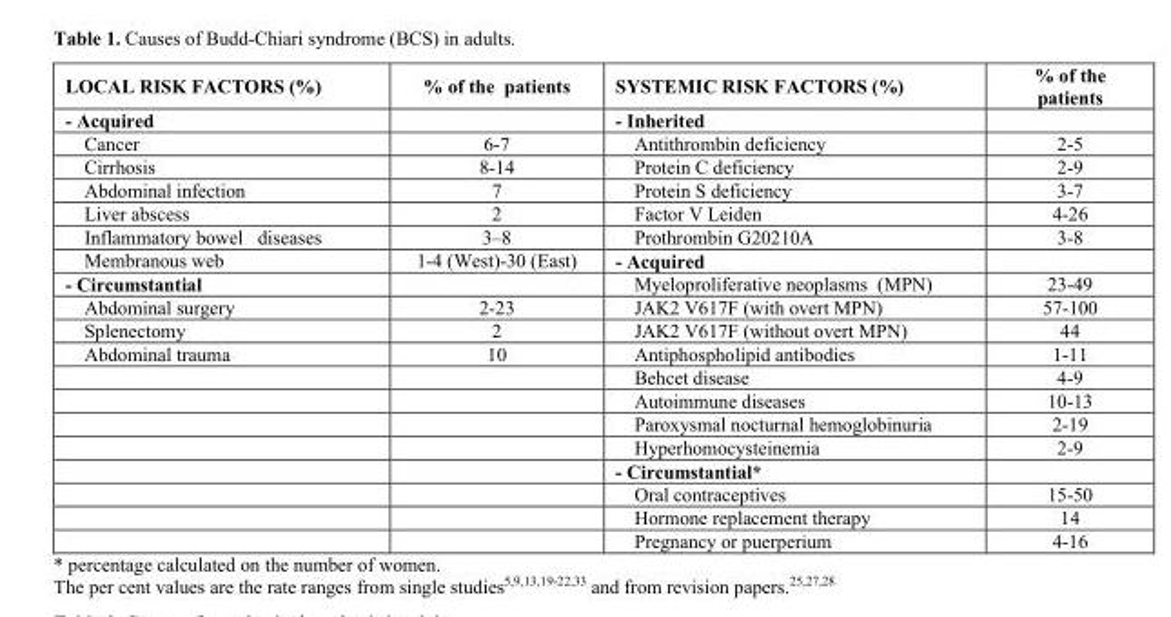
<table><thead><tr><td>LOCAL RISK FACTORS (%)</td><td>% of the patients</td><td>SYSTEMIC RISK FACTORS (%)</td><td>% of the patients</td></tr></thead><tbody><tr><td>- Acquired</td><td></td><td>- Inherited</td><td></td></tr><tr><td>Cancer</td><td>6-7</td><td>Antithrombin deficiency</td><td>2-5</td></tr><tr><td>Cirrhosis</td><td>8-14</td><td>Protein C deficiency</td><td>2-9</td></tr><tr><td>Abdominal infection</td><td>7</td><td>Protein S deficiency</td><td>3-7</td></tr><tr><td>Liver abscess</td><td>2</td><td>Factor V Leiden</td><td>4-26</td></tr><tr><td>Inflammatory bowel diseases</td><td>3–8</td><td>Prothrombin G20210A</td><td>3-8</td></tr><tr><td>Membranous web</td><td>1-4 (West)-30 (East)</td><td>- Acquired</td><td></td></tr><tr><td>- Circumstantial</td><td></td><td>Myeloproliferative neoplasms (MPN)</td><td>23-49</td></tr><tr><td>Abdominal surgery</td><td>2-23</td><td>JAK2 V617F (with overt MPN)</td><td>57-100</td></tr><tr><td>Splenectomy</td><td>2</td><td>JAK2 V617F (without overt MPN)</td><td>44</td></tr><tr><td rowspan="9">Abdominal trauma</td><td>10</td><td>Antiphospholipid antibodies</td><td>1-11</td></tr><tr><td></td><td>Behcet disease</td><td>4-9</td></tr><tr><td></td><td>Autoimmune diseases</td><td>10-13</td></tr><tr><td></td><td>Paroxysmal nocturnal hemoglobinuria</td><td>2-19</td></tr><tr><td></td><td>Hyperhomocysteinemia</td><td>2-9</td></tr><tr><td></td><td>- Circumstantial*</td><td></td></tr><tr><td></td><td>Oral contraceptives</td><td>15-50</td></tr><tr><td></td><td>Hormone replacement therapy</td><td>14</td></tr><tr><td></td><td>Pregnancy or puerperium</td><td>4-16</td></tr></tbody></table>